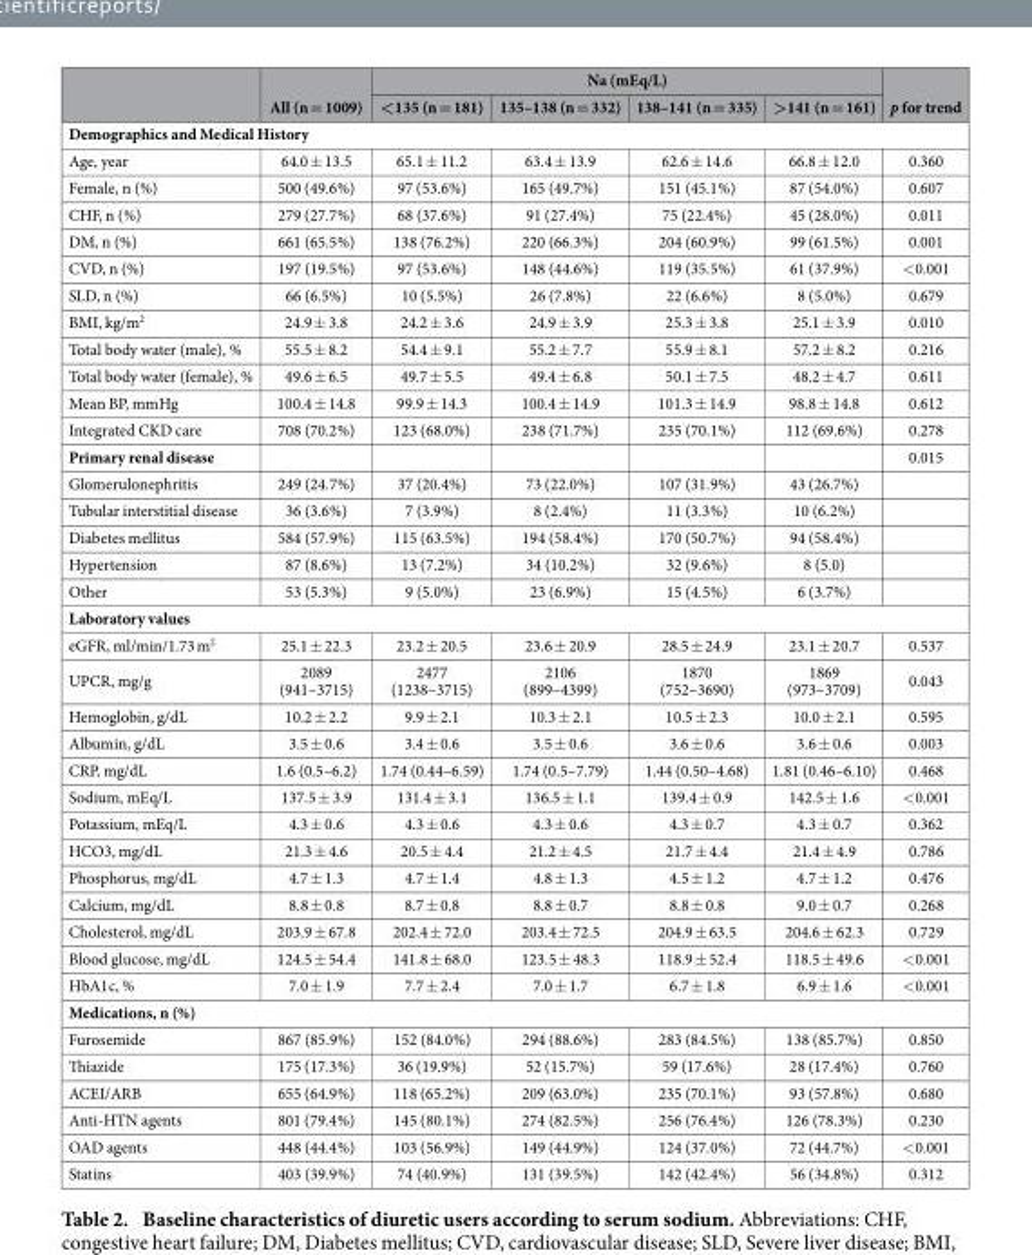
<table><thead><tr><td rowspan="2"></td><td rowspan="2">All (n = 1009)</td><td colspan="4">Na (mEq/L)</td><td rowspan="2">p for trend</td></tr><tr><td>&lt;135 (n = 181)</td><td>135–138 (n = 332)</td><td>138–141 (n = 335)</td><td>&gt;141 (n = 161)</td></tr></thead><tbody><tr><td colspan="7">Demographics and Medical History</td></tr><tr><td>Age, year</td><td>64.0 ± 13.5</td><td>65.1 ± 11.2</td><td>63.4 ± 13.9</td><td>62.6 ± 14.6</td><td>66.8 ± 12.0</td><td>0.360</td></tr><tr><td>Female, n (%)</td><td>500 (49.6%)</td><td>97 (53.6%)</td><td>165 (49.7%)</td><td>151 (45.1%)</td><td>87 (54.0%)</td><td>0.607</td></tr><tr><td>CHF, n (%)</td><td>279 (27.7%)</td><td>68 (37.6%)</td><td>91 (27.4%)</td><td>75 (22.4%)</td><td>45 (28.0%)</td><td>0.011</td></tr><tr><td>DM, n (%)</td><td>661 (65.5%)</td><td>138 (76.2%)</td><td>220 (66.3%)</td><td>204 (60.9%)</td><td>99 (61.5%)</td><td>0.001</td></tr><tr><td>CVD, n (%)</td><td>197 (19.5%)</td><td>97 (53.6%)</td><td>148 (44.6%)</td><td>119 (35.5%)</td><td>61 (37.9%)</td><td>&lt; 0.001</td></tr><tr><td>SLD, n (%)</td><td>66 (6.5%)</td><td>10 (5.5%)</td><td>26 (7.8%)</td><td>22 (6.6%)</td><td>8 (5.0%)</td><td>0.679</td></tr><tr><td>BMI, kg/m<sup>2</sup></td><td>24.9 ± 3.8</td><td>24.2 ± 3.6</td><td>24.9 ± 3.9</td><td>25.3 ± 3.8</td><td>25.1 ± 3.9</td><td>0.010</td></tr><tr><td>Total body water (male), %</td><td>55.5 ± 8.2</td><td>54.4 ± 9.1</td><td>55.2 ± 7.7</td><td>55.9 ± 8.1</td><td>57.2 ± 8.2</td><td>0.216</td></tr><tr><td>Total body water (female), %</td><td>49.6 ± 6.5</td><td>49.7 ± 5.5</td><td>49.4 ± 6.8</td><td>50.1 ± 7.5</td><td>48.2 ± 4.7</td><td>0.611</td></tr><tr><td>Mean BP, mmHg</td><td>100.4 ± 14.8</td><td>99.9 ± 14.3</td><td>100.4 ± 14.9</td><td>101.3 ± 14.9</td><td>98.8 ± 14.8</td><td>0.612</td></tr><tr><td>Integrated CKD care</td><td>708 (70.2%)</td><td>123 (68.0%)</td><td>238 (71.7%)</td><td>235 (70.1%)</td><td>112 (69.6%)</td><td>0.278</td></tr><tr><td>Primary renal disease</td><td></td><td></td><td></td><td></td><td></td><td>0.015</td></tr><tr><td>Glomerulonephritis</td><td>249 (24.7%)</td><td>37 (20.4%)</td><td>73 (22.0%)</td><td>107 (31.9%)</td><td>43 (26.7%)</td><td></td></tr><tr><td>Tubular interstitial disease</td><td>36 (3.6%)</td><td>7 (3.9%)</td><td>8 (2.4%)</td><td>11 (3.3%)</td><td>10 (6.2%)</td><td></td></tr><tr><td>Diabetes mellitus</td><td>584 (57.9%)</td><td>115 (63.5%)</td><td>194 (58.4%)</td><td>170 (50.7%)</td><td>94 (58.4%)</td><td></td></tr><tr><td>Hypertension</td><td>87 (8.6%)</td><td>13 (7.2%)</td><td>34 (10.2%)</td><td>32 (9.6%)</td><td>8 (5.0)</td><td></td></tr><tr><td>Other</td><td>53 (5.3%)</td><td>9 (5.0%)</td><td>23 (6.9%)</td><td>15 (4.5%)</td><td>6 (3.7%)</td><td></td></tr><tr><td colspan="7">Laboratory values</td></tr><tr><td>eGFR, ml/min/1.73 m<sup>2</sup></td><td>25.1 ± 22.3</td><td>23.2 ± 20.5</td><td>23.6 ± 20.9</td><td>28.5 ± 24.9</td><td>23.1 ± 20.7</td><td>0.537</td></tr><tr><td>UPCR, mg/g</td><td>2089 (941–3715)</td><td>2477 (1238–3715)</td><td>2106 (899–4399)</td><td>1870 (752–3690)</td><td>1869 (973–3709)</td><td>0.043</td></tr><tr><td>Hemoglobin, g/dL</td><td>10.2 ± 2.2</td><td>9.9 ± 2.1</td><td>10.3 ± 2.1</td><td>10.5 ± 2.3</td><td>10.0 ± 2.1</td><td>0.595</td></tr><tr><td>Albumin, g/dL</td><td>3.5 ± 0.6</td><td>3.4 ± 0.6</td><td>3.5 ± 0.6</td><td>3.6 ± 0.6</td><td>3.6 ± 0.6</td><td>0.003</td></tr><tr><td>CRP, mg/dL</td><td>1.6 (0.5–6.2)</td><td>1.74 (0.44–6.59)</td><td>1.74 (0.5–7.79)</td><td>1.44 (0.50–4.68)</td><td>1.81 (0.46–6.10)</td><td>0.468</td></tr><tr><td>Sodium, mEq/L</td><td>137.5 ± 3.9</td><td>131.4 ± 3.1</td><td>136.5 ± 1.1</td><td>139.4 ± 0.9</td><td>142.5 ± 1.6</td><td>&lt; 0.001</td></tr><tr><td>Potassium, mEq/L</td><td>4.3 ± 0.6</td><td>4.3 ± 0.6</td><td>4.3 ± 0.6</td><td>4.3 ± 0.7</td><td>4.3 ± 0.7</td><td>0.362</td></tr><tr><td>HCO3, mg/dL</td><td>21.3 ± 4.6</td><td>20.5 ± 4.4</td><td>21.2 ± 4.5</td><td>21.7 ± 4.4</td><td>21.4 ± 4.9</td><td>0.786</td></tr><tr><td>Phosphorus, mg/dL</td><td>4.7 ± 1.3</td><td>4.7 ± 1.4</td><td>4.8 ± 1.3</td><td>4.5 ± 1.2</td><td>4.7 ± 1.2</td><td>0.476</td></tr><tr><td>Calcium, mg/dL</td><td>8.8 ± 0.8</td><td>8.7 ± 0.8</td><td>8.8 ± 0.7</td><td>8.8 ± 0.8</td><td>9.0 ± 0.7</td><td>0.268</td></tr><tr><td>Cholesterol, mg/dL</td><td>203.9 ± 67.8</td><td>202.4 ± 72.0</td><td>203.4 ± 72.5</td><td>204.9 ± 63.5</td><td>204.6 ± 62.3</td><td>0.729</td></tr><tr><td>Blood glucose, mg/dL</td><td>124.5 ± 54.4</td><td>141.8 ± 68.0</td><td>123.5 ± 48.3</td><td>118.9 ± 52.4</td><td>118.5 ± 49.6</td><td>&lt; 0.001</td></tr><tr><td>HbA1c, %</td><td>7.0 ± 1.9</td><td>7.7 ± 2.4</td><td>7.0 ± 1.7</td><td>6.7 ± 1.8</td><td>6.9 ± 1.6</td><td>&lt; 0.001</td></tr><tr><td colspan="7">Medications, n (%)</td></tr><tr><td>Furosemide</td><td>867 (85.9%)</td><td>152 (84.0%)</td><td>294 (88.6%)</td><td>283 (84.5%)</td><td>138 (85.7%)</td><td>0.850</td></tr><tr><td>Thiazide</td><td>175 (17.3%)</td><td>36 (19.9%)</td><td>52 (15.7%)</td><td>59 (17.6%)</td><td>28 (17.4%)</td><td>0.760</td></tr><tr><td>ACEI/ARB</td><td>655 (64.9%)</td><td>118 (65.2%)</td><td>209 (63.0%)</td><td>235 (70.1%)</td><td>93 (57.8%)</td><td>0.680</td></tr><tr><td>Anti-HTN agents</td><td>801 (79.4%)</td><td>145 (80.1%)</td><td>274 (82.5%)</td><td>256 (76.4%)</td><td>126 (78.3%)</td><td>0.230</td></tr><tr><td>OAD agents</td><td>448 (44.4%)</td><td>103 (56.9%)</td><td>149 (44.9%)</td><td>124 (37.0%)</td><td>72 (44.7%)</td><td>&lt; 0.001</td></tr><tr><td>Statins</td><td>403 (39.9%)</td><td>74 (40.9%)</td><td>131 (39.5%)</td><td>142 (42.4%)</td><td>56 (34.8%)</td><td>0.312</td></tr></tbody></table>